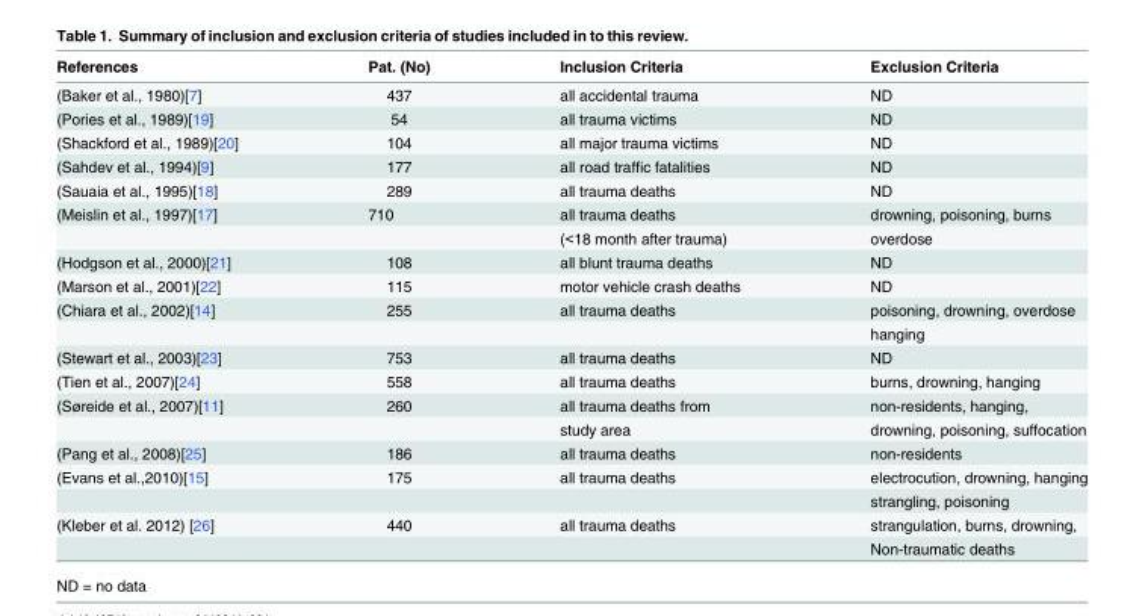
<table><thead><tr><td>References</td><td>Pat. (No)</td><td>Inclusion Criteria</td><td>Exclusion Criteria</td></tr></thead><tbody><tr><td>(Baker et al., 1980)[7]</td><td>437</td><td>all accidental trauma</td><td>ND</td></tr><tr><td>(Pories et al., 1989)[19]</td><td>54</td><td>all trauma victims</td><td>ND</td></tr><tr><td>(Shackford et al., 1989)[20]</td><td>104</td><td>all major trauma victims</td><td>ND</td></tr><tr><td>(Sahdev et al., 1994)[9]</td><td>177</td><td>all road traffic fatalities</td><td>ND</td></tr><tr><td>(Sauaia et al., 1995)[18]</td><td>289</td><td>all trauma deaths</td><td>ND</td></tr><tr><td rowspan="2">(Meislin et al., 1997)[17]</td><td>710</td><td>all trauma deaths</td><td>drowning, poisoning, burns</td></tr><tr><td></td><td>(&lt;18 month after trauma)</td><td>overdose</td></tr><tr><td>(Hodgson et al., 2000)[21]</td><td>108</td><td>all blunt trauma deaths</td><td>ND</td></tr><tr><td>(Marson et al., 2001)[22]</td><td>115</td><td>motor vehicle crash deaths</td><td>ND</td></tr><tr><td rowspan="2">(Chiara et al., 2002)[14]</td><td>255</td><td>all trauma deaths</td><td>poisoning, drowning, overdose</td></tr><tr><td></td><td></td><td>hanging</td></tr><tr><td>(Stewart et al., 2003)[23]</td><td>753</td><td>all trauma deaths</td><td>ND</td></tr><tr><td>(Tien et al., 2007)[24]</td><td>558</td><td>all trauma deaths</td><td>burns, drowning, hanging</td></tr><tr><td rowspan="2">(Søreide et al., 2007)[11]</td><td>260</td><td>all trauma deaths from</td><td>non-residents, hanging,</td></tr><tr><td></td><td>study area</td><td>drowning, poisoning, suffocation</td></tr><tr><td>(Pang et al., 2008)[25]</td><td>186</td><td>all trauma deaths</td><td>non-residents</td></tr><tr><td rowspan="2">(Evans et al.,2010)[15]</td><td>175</td><td>all trauma deaths</td><td>electrocution, drowning, hanging</td></tr><tr><td></td><td></td><td>strangling, poisoning</td></tr><tr><td rowspan="2">(Kleber et al. 2012) [26]</td><td>440</td><td>all trauma deaths</td><td>strangulation, burns, drowning,</td></tr><tr><td></td><td></td><td>Non-traumatic deaths</td></tr></tbody></table>